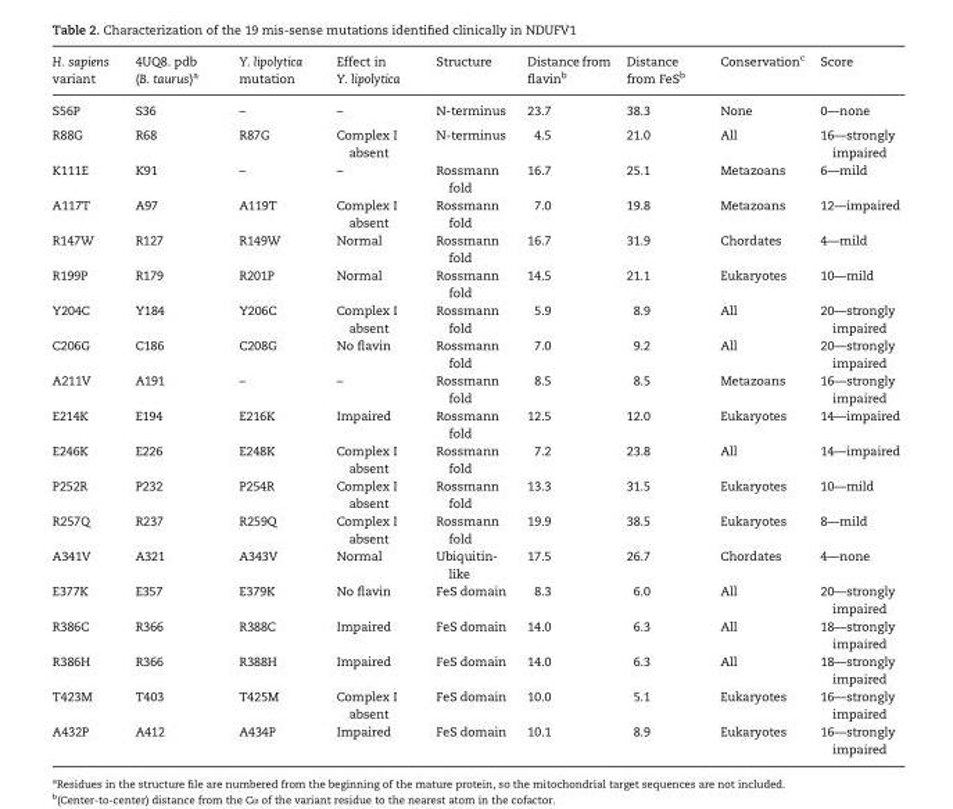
<table><thead><tr><td>H. sapiens variant</td><td>4UQ8. pdb (B. taurus)a</td><td>Y. lipolytica mutation</td><td>Effect in Y. lipolytica</td><td>Structure</td><td>Distance from flavinb</td><td>Distance from FeSb</td><td>Conservationc</td><td>Score</td></tr></thead><tbody><tr><td>S56P</td><td>S36</td><td>–</td><td>–</td><td>N-terminus</td><td>23.7</td><td>38.3</td><td>None</td><td>0—none</td></tr><tr><td>R88G</td><td>R68</td><td>R87G</td><td>Complex I absent</td><td>N-terminus</td><td>4.5</td><td>21.0</td><td>All</td><td>16—strongly impaired</td></tr><tr><td>K111E</td><td>K91</td><td>–</td><td>–</td><td>Rossmann fold</td><td>16.7</td><td>25.1</td><td>Metazoans</td><td>6—mild</td></tr><tr><td>A117T</td><td>A97</td><td>A119T</td><td>Complex I absent</td><td>Rossmann fold</td><td>7.0</td><td>19.8</td><td>Metazoans</td><td>12—impaired</td></tr><tr><td>R147W</td><td>R127</td><td>R149W</td><td>Normal</td><td>Rossmann fold</td><td>16.7</td><td>31.9</td><td>Chordates</td><td>4—mild</td></tr><tr><td>R199P</td><td>R179</td><td>R201P</td><td>Normal</td><td>Rossmann fold</td><td>14.5</td><td>21.1</td><td>Eukaryotes</td><td>10—mild</td></tr><tr><td>Y204C</td><td>Y184</td><td>Y206C</td><td>Complex I absent</td><td>Rossmann fold</td><td>5.9</td><td>8.9</td><td>All</td><td>20—strongly impaired</td></tr><tr><td>C206G</td><td>C186</td><td>C208G</td><td>No flavin</td><td>Rossmann fold</td><td>7.0</td><td>9.2</td><td>All</td><td>20—strongly impaired</td></tr><tr><td>A211V</td><td>A191</td><td>–</td><td>–</td><td>Rossmann fold</td><td>8.5</td><td>8.5</td><td>Metazoans</td><td>16—strongly impaired</td></tr><tr><td>E214K</td><td>E194</td><td>E216K</td><td>Impaired</td><td>Rossmann fold</td><td>12.5</td><td>12.0</td><td>Eukaryotes</td><td>14—impaired</td></tr><tr><td>E246K</td><td>E226</td><td>E248K</td><td>Complex I absent</td><td>Rossmann fold</td><td>7.2</td><td>23.8</td><td>All</td><td>14—impaired</td></tr><tr><td>P252R</td><td>P232</td><td>P254R</td><td>Complex I absent</td><td>Rossmann fold</td><td>13.3</td><td>31.5</td><td>Eukaryotes</td><td>10—mild</td></tr><tr><td>R257Q</td><td>R237</td><td>R259Q</td><td>Complex I absent</td><td>Rossmann fold</td><td>19.9</td><td>38.5</td><td>Eukaryotes</td><td>8—mild</td></tr><tr><td>A341V</td><td>A321</td><td>A343V</td><td>Normal</td><td>Ubiquitin- like</td><td>17.5</td><td>26.7</td><td>Chordates</td><td>4—none</td></tr><tr><td>E377K</td><td>E357</td><td>E379K</td><td>No flavin</td><td>FeS domain</td><td>8.3</td><td>6.0</td><td>All</td><td>20—strongly impaired</td></tr><tr><td>R386C</td><td>R366</td><td>R388C</td><td>Impaired</td><td>FeS domain</td><td>14.0</td><td>6.3</td><td>All</td><td>18—strongly impaired</td></tr><tr><td>R386H</td><td>R366</td><td>R388H</td><td>Impaired</td><td>FeS domain</td><td>14.0</td><td>6.3</td><td>All</td><td>18—strongly impaired</td></tr><tr><td>T423M</td><td>T403</td><td>T425M</td><td>Complex I absent</td><td>FeS domain</td><td>10.0</td><td>5.1</td><td>Eukaryotes</td><td>16—strongly impaired</td></tr><tr><td>A432P</td><td>A412</td><td>A434P</td><td>Impaired</td><td>FeS domain</td><td>10.1</td><td>8.9</td><td>Eukaryotes</td><td>16—strongly impaired</td></tr></tbody></table>